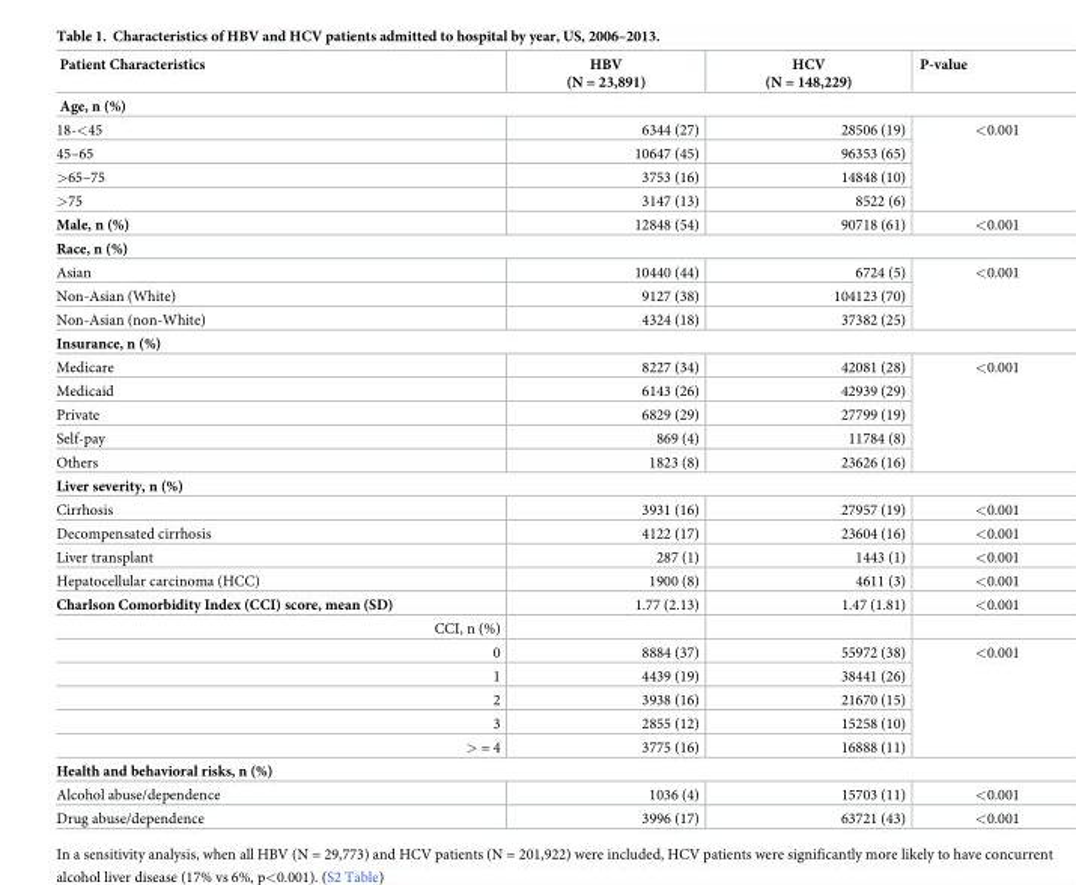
<table><thead><tr><td>Patient Characteristics</td><td>HBV (N = 23,891)</td><td>HCV (N = 148,229)</td><td>P-value</td></tr></thead><tbody><tr><td colspan="4">Age, n (%)</td></tr><tr><td>18-&lt;45</td><td>6344 (27)</td><td>28506 (19)</td><td rowspan="4">&lt;0.001</td></tr><tr><td>45–65</td><td>10647 (45)</td><td>96353 (65)</td></tr><tr><td>&gt;65–75</td><td>3753 (16)</td><td>14848 (10)</td></tr><tr><td>&gt;75</td><td>3147 (13)</td><td>8522 (6)</td></tr><tr><td>Male, n (%)</td><td>12848 (54)</td><td>90718 (61)</td><td>&lt;0.001</td></tr><tr><td colspan="4">Race, n (%)</td></tr><tr><td>Asian</td><td>10440 (44)</td><td>6724 (5)</td><td rowspan="3">&lt;0.001</td></tr><tr><td>Non-Asian (White)</td><td>9127 (38)</td><td>104123 (70)</td></tr><tr><td>Non-Asian (non-White)</td><td>4324 (18)</td><td>37382 (25)</td></tr><tr><td colspan="4">Insurance, n (%)</td></tr><tr><td>Medicare</td><td>8227 (34)</td><td>42081 (28)</td><td rowspan="5">&lt;0.001</td></tr><tr><td>Medicaid</td><td>6143 (26)</td><td>42939 (29)</td></tr><tr><td>Private</td><td>6829 (29)</td><td>27799 (19)</td></tr><tr><td>Self-pay</td><td>869 (4)</td><td>11784 (8)</td></tr><tr><td>Others</td><td>1823 (8)</td><td>23626 (16)</td></tr><tr><td colspan="4">Liver severity, n (%)</td></tr><tr><td>Cirrhosis</td><td>3931 (16)</td><td>27957 (19)</td><td>&lt;0.001</td></tr><tr><td>Decompensated cirrhosis</td><td>4122 (17)</td><td>23604 (16)</td><td>&lt;0.001</td></tr><tr><td>Liver transplant</td><td>287 (1)</td><td>1443 (1)</td><td>&lt;0.001</td></tr><tr><td>Hepatocellular carcinoma (HCC)</td><td>1900 (8)</td><td>4611 (3)</td><td>&lt;0.001</td></tr><tr><td>Charlson Comorbidity Index (CCI) score, mean (SD)</td><td>1.77 (2.13)</td><td>1.47 (1.81)</td><td>&lt;0.001</td></tr><tr><td colspan="4">CCI, n (%)</td></tr><tr><td>0</td><td>8884 (37)</td><td>55972 (38)</td><td rowspan="5">&lt;0.001</td></tr><tr><td>1</td><td>4439 (19)</td><td>38441 (26)</td></tr><tr><td>2</td><td>3938 (16)</td><td>21670 (15)</td></tr><tr><td>3</td><td>2855 (12)</td><td>15258 (10)</td></tr><tr><td>&gt; = 4</td><td>3775 (16)</td><td>16888 (11)</td></tr><tr><td colspan="4">Health and behavioral risks, n (%)</td></tr><tr><td>Alcohol abuse/dependence</td><td>1036 (4)</td><td>15703 (11)</td><td>&lt;0.001</td></tr><tr><td>Drug abuse/dependence</td><td>3996 (17)</td><td>63721 (43)</td><td>&lt;0.001</td></tr></tbody></table>